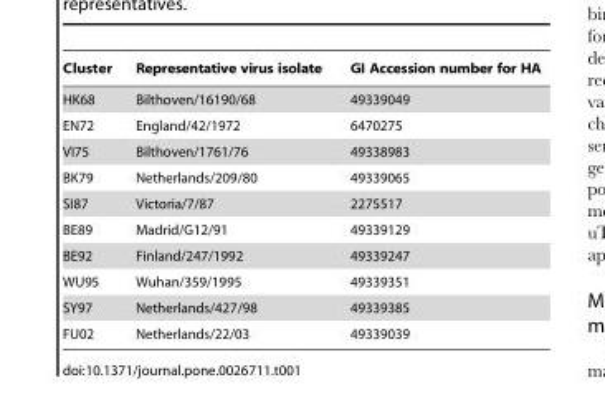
<table><thead><tr><td>Cluster</td><td>Representative virus isolate</td><td>GI Accession number for HA</td></tr></thead><tbody><tr><td>HK68</td><td>Bilthoven/16190/68</td><td>49339049</td></tr><tr><td>EN72</td><td>England/42/1972</td><td>6470275</td></tr><tr><td>VI75</td><td>Bilthoven/1761/76</td><td>49338983</td></tr><tr><td>BK79</td><td>Netherlands/209/80</td><td>49339065</td></tr><tr><td>SI87</td><td>Victoria/7/87</td><td>2275517</td></tr><tr><td>BE89</td><td>Madrid/G12/91</td><td>49339129</td></tr><tr><td>BE92</td><td>Finland/247/1992</td><td>49339247</td></tr><tr><td>WU95</td><td>Wuhan/359/1995</td><td>49339351</td></tr><tr><td>SY97</td><td>Netherlands/427/98</td><td>49339385</td></tr><tr><td>FU02</td><td>Netherlands/22/03</td><td>49339039</td></tr></tbody></table>